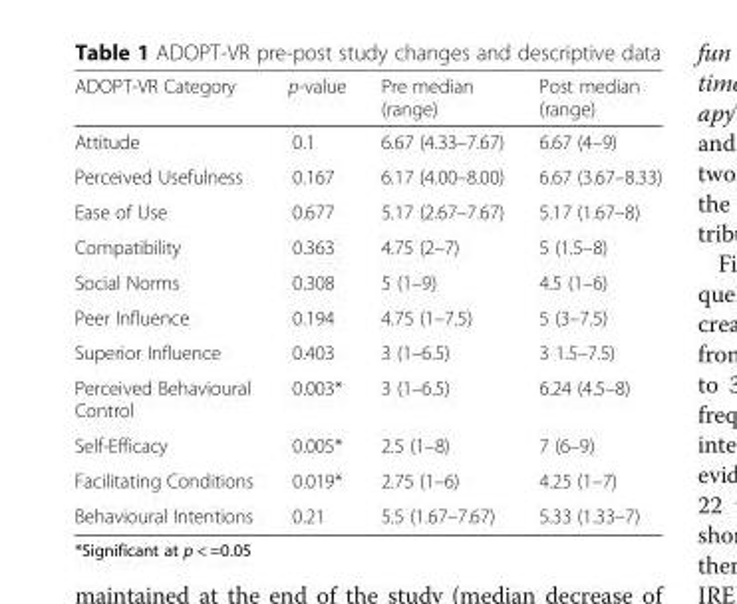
<table><thead><tr><td>ADOPT-VR Category</td><td>p-value</td><td>Pre median (range)</td><td>Post median (range)</td></tr></thead><tbody><tr><td>Attitude</td><td>0.1</td><td>6.67 (4.33–7.67)</td><td>6.67 (4–9)</td></tr><tr><td>Perceived Usefulness</td><td>0.167</td><td>6.17 (4.00–8.00)</td><td>6.67 (3.67–8.33)</td></tr><tr><td>Ease of Use</td><td>0.677</td><td>5.17 (2.67–7.67)</td><td>5.17 (1.67–8)</td></tr><tr><td>Compatibility</td><td>0.363</td><td>4.75 (2–7)</td><td>5 (1.5–8)</td></tr><tr><td>Social Norms</td><td>0.308</td><td>5 (1–9)</td><td>4.5 (1–6)</td></tr><tr><td>Peer Influence</td><td>0.194</td><td>4.75 (1–7.5)</td><td>5 (3–7.5)</td></tr><tr><td>Superior Influence</td><td>0.403</td><td>3 (1–6.5)</td><td>3 1.5–7.5)</td></tr><tr><td>Perceived Behavioural Control</td><td>0.003*</td><td>3 (1–6.5)</td><td>6.24 (4.5–8)</td></tr><tr><td>Self-Efficacy</td><td>0.005*</td><td>2.5 (1–8)</td><td>7 (6–9)</td></tr><tr><td>Facilitating Conditions</td><td>0.019*</td><td>2.75 (1–6)</td><td>4.25 (1–7)</td></tr><tr><td>Behavioural Intentions</td><td>0.21</td><td>5.5 (1.67–7.67)</td><td>5.33 (1.33–7)</td></tr></tbody></table>